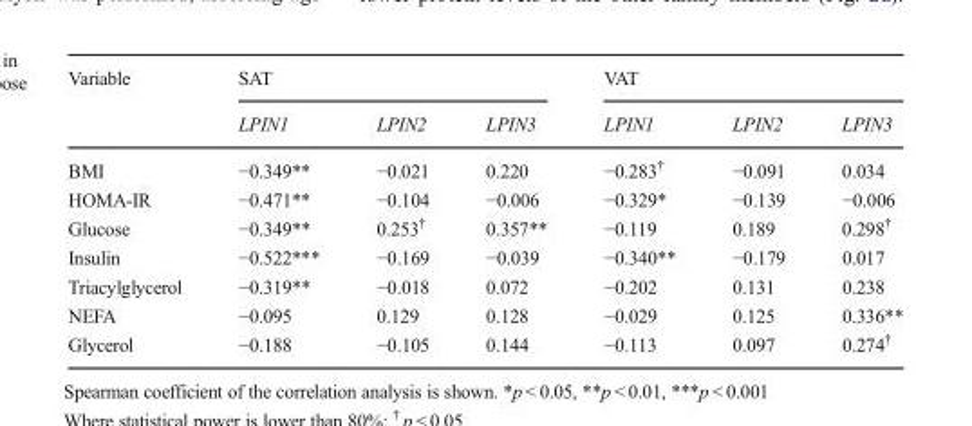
<table><thead><tr><td rowspan="2">Variable</td><td colspan="3">SAT</td><td colspan="3">VAT</td></tr><tr><td>LPIN1</td><td>LPIN2</td><td>LPIN3</td><td>LPIN1</td><td>LPIN2</td><td>LPIN3</td></tr></thead><tbody><tr><td>BMI</td><td>−0.349**</td><td>−0.021</td><td>0.220</td><td>−0.283<sup>†</sup></td><td>−0.091</td><td>0.034</td></tr><tr><td>HOMA-IR</td><td>−0.471**</td><td>−0.104</td><td>−0.006</td><td>−0.329*</td><td>−0.139</td><td>−0.006</td></tr><tr><td>Glucose</td><td>−0.349**</td><td>0.253<sup>†</sup></td><td>0.357**</td><td>−0.119</td><td>0.189</td><td>0.298<sup>†</sup></td></tr><tr><td>Insulin</td><td>−0.522***</td><td>−0.169</td><td>−0.039</td><td>−0.340**</td><td>−0.179</td><td>0.017</td></tr><tr><td>Triacylglycerol</td><td>−0.319**</td><td>−0.018</td><td>0.072</td><td>−0.202</td><td>0.131</td><td>0.238</td></tr><tr><td>NEFA</td><td>−0.095</td><td>0.129</td><td>0.128</td><td>−0.029</td><td>0.125</td><td>0.336**</td></tr><tr><td>Glycerol</td><td>−0.188</td><td>−0.105</td><td>0.144</td><td>−0.113</td><td>0.097</td><td>0.274<sup>†</sup></td></tr></tbody></table>